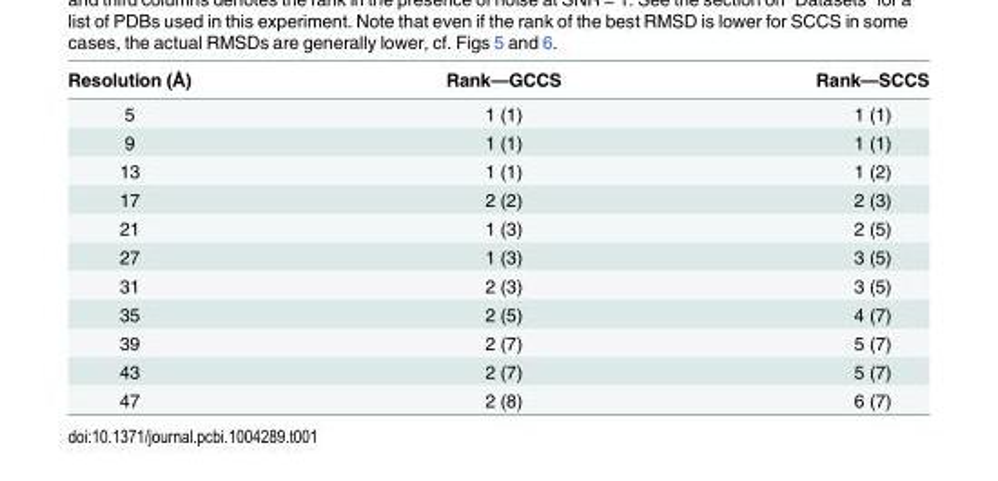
<table><thead><tr><td>Resolution (Å)</td><td>Rank—GCCS</td><td>Rank—SCCS</td></tr></thead><tbody><tr><td>5</td><td>1 (1)</td><td>1 (1)</td></tr><tr><td>9</td><td>1 (1)</td><td>1 (1)</td></tr><tr><td>13</td><td>1 (1)</td><td>1 (2)</td></tr><tr><td>17</td><td>2 (2)</td><td>2 (3)</td></tr><tr><td>21</td><td>1 (3)</td><td>2 (5)</td></tr><tr><td>27</td><td>1 (3)</td><td>3 (5)</td></tr><tr><td>31</td><td>2 (3)</td><td>3 (5)</td></tr><tr><td>35</td><td>2 (5)</td><td>4 (7)</td></tr><tr><td>39</td><td>2 (7)</td><td>5 (7)</td></tr><tr><td>43</td><td>2 (7)</td><td>5 (7)</td></tr><tr><td>47</td><td>2 (8)</td><td>6 (7)</td></tr></tbody></table>